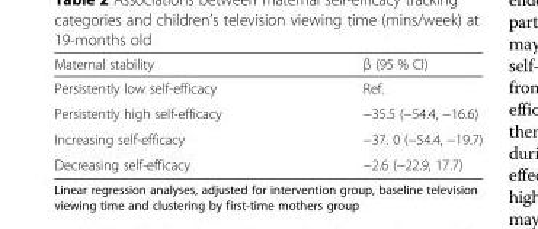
<table><thead><tr><td>Maternal stability</td><td>β (95 % CI)</td></tr></thead><tbody><tr><td>Persistently low self-efficacy</td><td>Ref.</td></tr><tr><td>Persistently high self-efficacy</td><td>−35.5 (−54.4, −16.6)</td></tr><tr><td>Increasing self-efficacy</td><td>−37. 0 (−54.4, −19.7)</td></tr><tr><td>Decreasing self-efficacy</td><td>−2.6 (−22.9, 17.7)</td></tr></tbody></table>